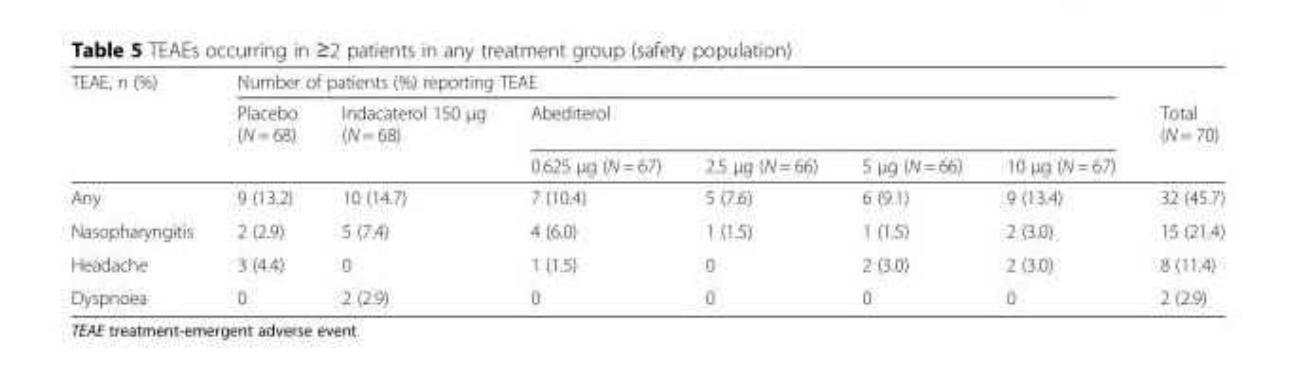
<table><thead><tr><td rowspan="3">TEAE, n (%)</td><td colspan="6">Number of patients (%) reporting TEAE</td><td rowspan="3">Total (N = 70)</td></tr><tr><td rowspan="2">Placebo (N = 68)</td><td rowspan="2">Indacaterol 150 μg (N = 68)</td><td colspan="4">Abediterol</td></tr><tr><td>0.625 μg (N = 67)</td><td>2.5 μg (N = 66)</td><td>5 μg (N = 66)</td><td>10 μg (N = 67)</td></tr></thead><tbody><tr><td>Any</td><td>9 (13.2)</td><td>10 (14.7)</td><td>7 (10.4)</td><td>5 (7.6)</td><td>6 (9.1)</td><td>9 (13.4)</td><td>32 (45.7)</td></tr><tr><td>Nasopharyngitis</td><td>2 (2.9)</td><td>5 (7.4)</td><td>4 (6.0)</td><td>1 (1.5)</td><td>1 (1.5)</td><td>2 (3.0)</td><td>15 (21.4)</td></tr><tr><td>Headache</td><td>3 (4.4)</td><td>0</td><td>1 (1.5)</td><td>0</td><td>2 (3.0)</td><td>2 (3.0)</td><td>8 (11.4)</td></tr><tr><td>Dyspnoea</td><td>0</td><td>2 (2.9)</td><td>0</td><td>0</td><td>0</td><td>0</td><td>2 (2.9)</td></tr></tbody></table>